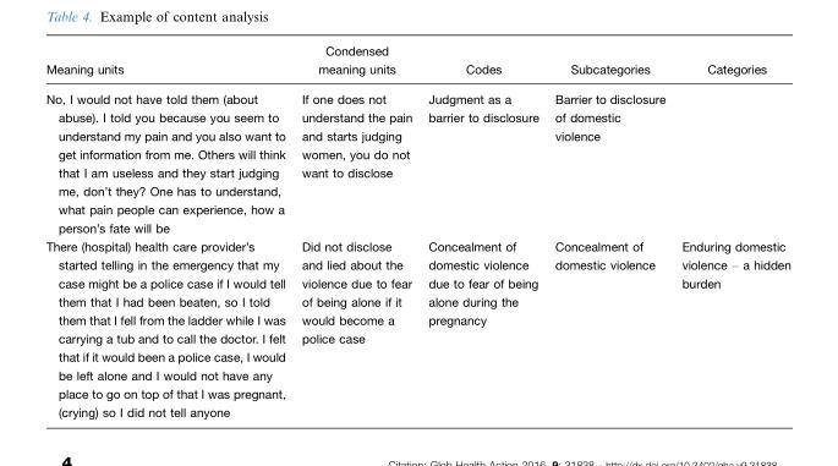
<table><thead><tr><td>Meaning units</td><td>Condensed meaning units</td><td>Codes</td><td>Subcategories</td><td>Categories</td></tr></thead><tbody><tr><td>No, I would not have told them (about abuse). I told you because you seem to understand my pain and you also want to get information from me. Others will think that I am useless and they start judging me, don’t they? One has to understand, what pain people can experience, how a person’s fate will be</td><td>If one does not understand the pain and starts judging women, you do not want to disclose</td><td>Judgment as a barrier to disclosure</td><td>Barrier to disclosure of domestic violence</td><td></td></tr><tr><td>There (hospital) health care provider’s started telling in the emergency that my case might be a police case if I would tell them that I had been beaten, so I told them that I fell from the ladder while I was carrying a tub and to call the doctor. I felt that if it would been a police case, I would be left alone and I would not have any place to go on top of that I was pregnant, (crying) so I did not tell anyone</td><td>Did not disclose and lied about the violence due to fear of being alone if it would become a police case</td><td>Concealment of domestic violence due to fear of being alone during the pregnancy</td><td>Concealment of domestic violence</td><td>Enduring domestic violence – a hidden burden</td></tr></tbody></table>